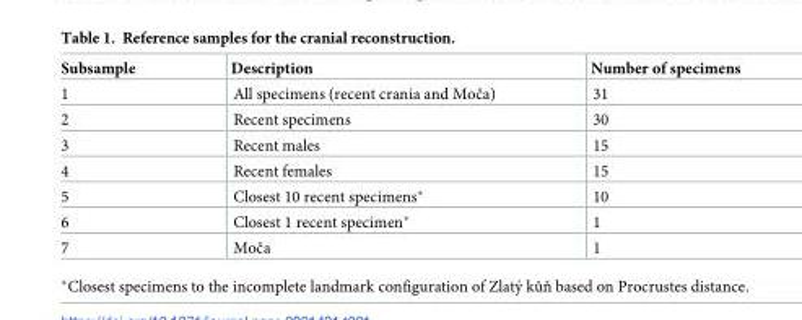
<table><thead><tr><td>Subsample</td><td>Description</td><td>Number of specimens</td></tr></thead><tbody><tr><td>1</td><td>All specimens (recent crania and Moča)</td><td>31</td></tr><tr><td>2</td><td>Recent specimens</td><td>30</td></tr><tr><td>3</td><td>Recent males</td><td>15</td></tr><tr><td>4</td><td>Recent females</td><td>15</td></tr><tr><td>5</td><td>Closest 10 recent specimens*</td><td>10</td></tr><tr><td>6</td><td>Closest 1 recent specimen*</td><td>1</td></tr><tr><td>7</td><td>Moča</td><td>1</td></tr></tbody></table>